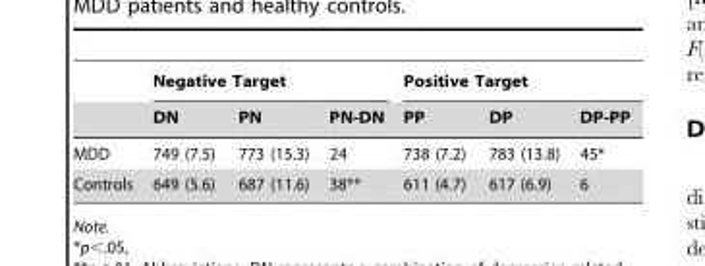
<table><thead><tr><td rowspan="2"></td><td colspan="3">Negative Target</td><td colspan="3">Positive Target</td></tr><tr><td>DN</td><td>PN</td><td>PN-DN</td><td>PP</td><td>DP</td><td>DP-PP</td></tr></thead><tbody><tr><td>MDD</td><td>749 (7.5)</td><td>773 (15.3)</td><td>24</td><td>738 (7.2)</td><td>783 (13.8)</td><td>45*</td></tr><tr><td>Controls</td><td>649 (5.6)</td><td>687 (11.6)</td><td>38**</td><td>611 (4.7)</td><td>617 (6.9)</td><td>6</td></tr></tbody></table>